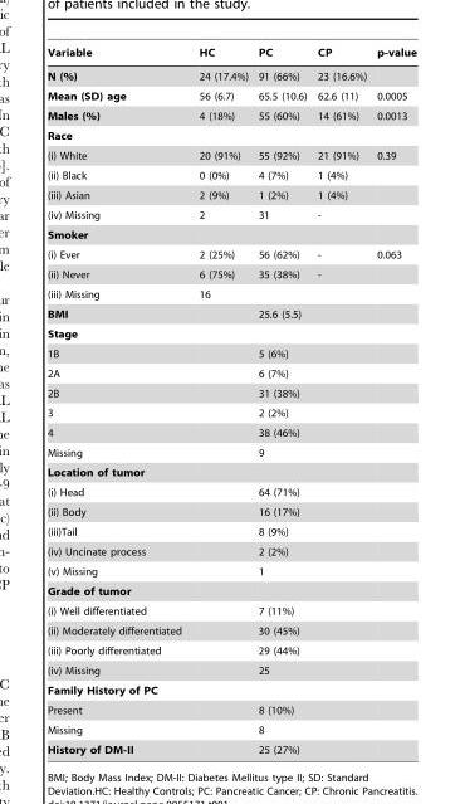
<table><thead><tr><td>Variable</td><td>HC</td><td>PC</td><td>CP</td><td>p-value</td></tr></thead><tbody><tr><td>N (%)</td><td>24 (17.4%)</td><td>91 (66%)</td><td>23 (16.6%)</td><td></td></tr><tr><td>Mean (SD) age</td><td>56 (6.7)</td><td>65.5 (10.6)</td><td>62.6 (11)</td><td>0.0005</td></tr><tr><td>Males (%)</td><td>4 (18%)</td><td>55 (60%)</td><td>14 (61%)</td><td>0.0013</td></tr><tr><td colspan="5">Race</td></tr><tr><td>(i) White</td><td>20 (91%)</td><td>55 (92%)</td><td>21 (91%)</td><td>0.39</td></tr><tr><td>(ii) Black</td><td>0 (0%)</td><td>4 (7%)</td><td>1 (4%)</td><td></td></tr><tr><td>(iii) Asian</td><td>2 (9%)</td><td>1 (2%)</td><td>1 (4%)</td><td></td></tr><tr><td>(iv) Missing</td><td>2</td><td>31</td><td>-</td><td></td></tr><tr><td colspan="5">Smoker</td></tr><tr><td>(i) Ever</td><td>2 (25%)</td><td>56 (62%)</td><td>-</td><td>0.063</td></tr><tr><td>(ii) Never</td><td>6 (75%)</td><td>35 (38%)</td><td>-</td><td></td></tr><tr><td>(iii) Missing</td><td>16</td><td></td><td></td><td></td></tr><tr><td>BMI</td><td></td><td>25.6 (5.5)</td><td></td><td></td></tr><tr><td colspan="5">Stage</td></tr><tr><td>1B</td><td></td><td>5 (6%)</td><td></td><td></td></tr><tr><td>2A</td><td></td><td>6 (7%)</td><td></td><td></td></tr><tr><td>2B</td><td></td><td>31 (38%)</td><td></td><td></td></tr><tr><td>3</td><td></td><td>2 (2%)</td><td></td><td></td></tr><tr><td>4</td><td></td><td>38 (46%)</td><td></td><td></td></tr><tr><td>Missing</td><td></td><td>9</td><td></td><td></td></tr><tr><td colspan="5">Location of tumor</td></tr><tr><td>(i) Head</td><td></td><td>64 (71%)</td><td></td><td></td></tr><tr><td>(ii) Body</td><td></td><td>16 (17%)</td><td></td><td></td></tr><tr><td>(iii)Tail</td><td></td><td>8 (9%)</td><td></td><td></td></tr><tr><td>(iv) Uncinate process</td><td></td><td>2 (2%)</td><td></td><td></td></tr><tr><td>(v) Missing</td><td></td><td>1</td><td></td><td></td></tr><tr><td colspan="5">Grade of tumor</td></tr><tr><td>(i) Well differentiated</td><td></td><td>7 (11%)</td><td></td><td></td></tr><tr><td>(ii) Moderately differentiated</td><td></td><td>30 (45%)</td><td></td><td></td></tr><tr><td>(iii) Poorly differentiated</td><td></td><td>29 (44%)</td><td></td><td></td></tr><tr><td>(iv) Missing</td><td></td><td>25</td><td></td><td></td></tr><tr><td colspan="5">Family History of PC</td></tr><tr><td>Present</td><td></td><td>8 (10%)</td><td></td><td></td></tr><tr><td>Missing</td><td></td><td>8</td><td></td><td></td></tr><tr><td>History of DM-II</td><td></td><td>25 (27%)</td><td></td><td></td></tr></tbody></table>